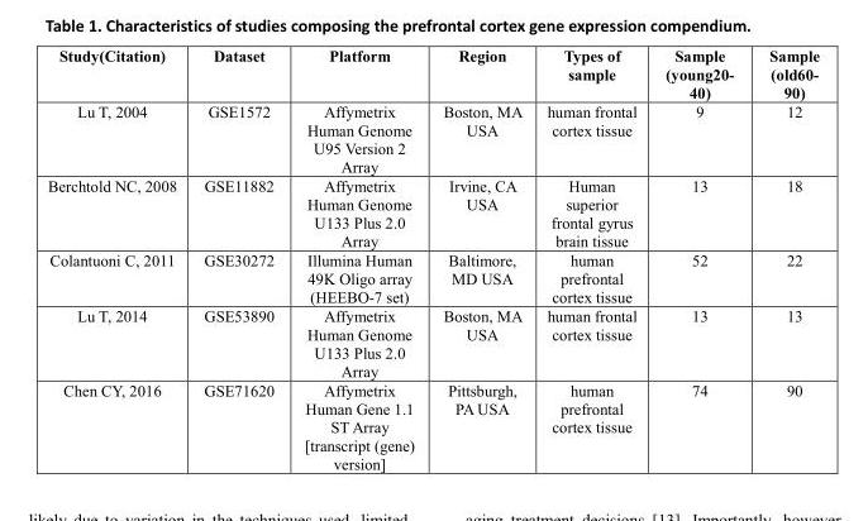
<table><tbody><tr><td>Study(Citation)</td><td>Dataset</td><td>Platform</td><td>Region</td><td>Types of sample</td><td>Sample (young20- 40)</td><td>Sample (old60- 90)</td></tr><tr><td>Lu T, 2004</td><td>GSE1572</td><td>Affymetrix Human Genome U95 Version 2 Array</td><td>Boston, MA USA</td><td>human frontal cortex tissue</td><td>9</td><td>12</td></tr><tr><td>Berchtold NC, 2008</td><td>GSE11882</td><td>Affymetrix Human Genome U133 Plus 2.0 Array</td><td>Irvine, CA USA</td><td>Human superior frontal gyrus brain tissue</td><td>13</td><td>18</td></tr><tr><td>Colantuoni C, 2011</td><td>GSE30272</td><td>Illumina Human 49K Oligo array (HEEBO-7 set)</td><td>Baltimore, MD USA</td><td>human prefrontal cortex tissue</td><td>52</td><td>22</td></tr><tr><td>Lu T, 2014</td><td>GSE53890</td><td>Affymetrix Human Genome U133 Plus 2.0 Array</td><td>Boston, MA USA</td><td>human frontal cortex tissue</td><td>13</td><td>13</td></tr><tr><td>Chen CY, 2016</td><td>GSE71620</td><td>Affymetrix Human Gene 1.1 ST Array [transcript (gene) version]</td><td>Pittsburgh, PA USA</td><td>human prefrontal cortex tissue</td><td>74</td><td>90</td></tr></tbody></table>